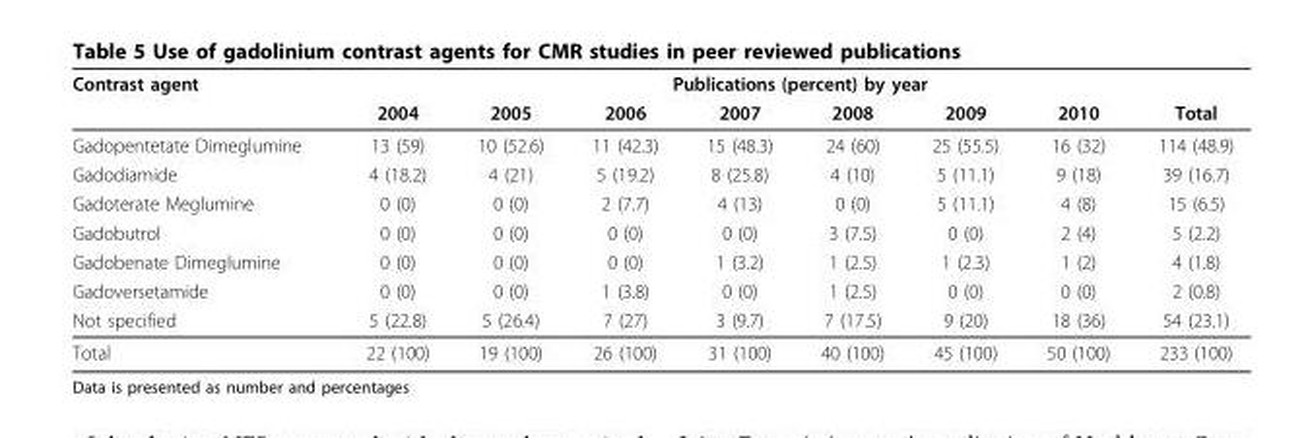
<table><thead><tr><td rowspan="2">Contrast agent</td><td colspan="8">Publications (percent) by year</td></tr><tr><td>2004</td><td>2005</td><td>2006</td><td>2007</td><td>2008</td><td>2009</td><td>2010</td><td>Total</td></tr></thead><tbody><tr><td>Gadopentetate Dimeglumine</td><td>13 (59)</td><td>10 (52.6)</td><td>11 (42.3)</td><td>15 (48.3)</td><td>24 (60)</td><td>25 (55.5)</td><td>16 (32)</td><td>114 (48.9)</td></tr><tr><td>Gadodiamide</td><td>4 (18.2)</td><td>4 (21)</td><td>5 (19.2)</td><td>8 (25.8)</td><td>4 (10)</td><td>5 (11.1)</td><td>9 (18)</td><td>39 (16.7)</td></tr><tr><td>Gadoterate Meglumine</td><td>0 (0)</td><td>0 (0)</td><td>2 (7.7)</td><td>4 (13)</td><td>0 (0)</td><td>5 (11.1)</td><td>4 (8)</td><td>15 (6.5)</td></tr><tr><td>Gadobutrol</td><td>0 (0)</td><td>0 (0)</td><td>0 (0)</td><td>0 (0)</td><td>3 (7.5)</td><td>0 (0)</td><td>2 (4)</td><td>5 (2.2)</td></tr><tr><td>Gadobenate Dimeglumine</td><td>0 (0)</td><td>0 (0)</td><td>0 (0)</td><td>1 (3.2)</td><td>1 (2.5)</td><td>1 (2.3)</td><td>1 (2)</td><td>4 (1.8)</td></tr><tr><td>Gadoversetamide</td><td>0 (0)</td><td>0 (0)</td><td>1 (3.8)</td><td>0 (0)</td><td>1 (2.5)</td><td>0 (0)</td><td>0 (0)</td><td>2 (0.8)</td></tr><tr><td>Not specified</td><td>5 (22.8)</td><td>5 (26.4)</td><td>7 (27)</td><td>3 (9.7)</td><td>7 (17.5)</td><td>9 (20)</td><td>18 (36)</td><td>54 (23.1)</td></tr><tr><td>Total</td><td>22 (100)</td><td>19 (100)</td><td>26 (100)</td><td>31 (100)</td><td>40 (100)</td><td>45 (100)</td><td>50 (100)</td><td>233 (100)</td></tr></tbody></table>